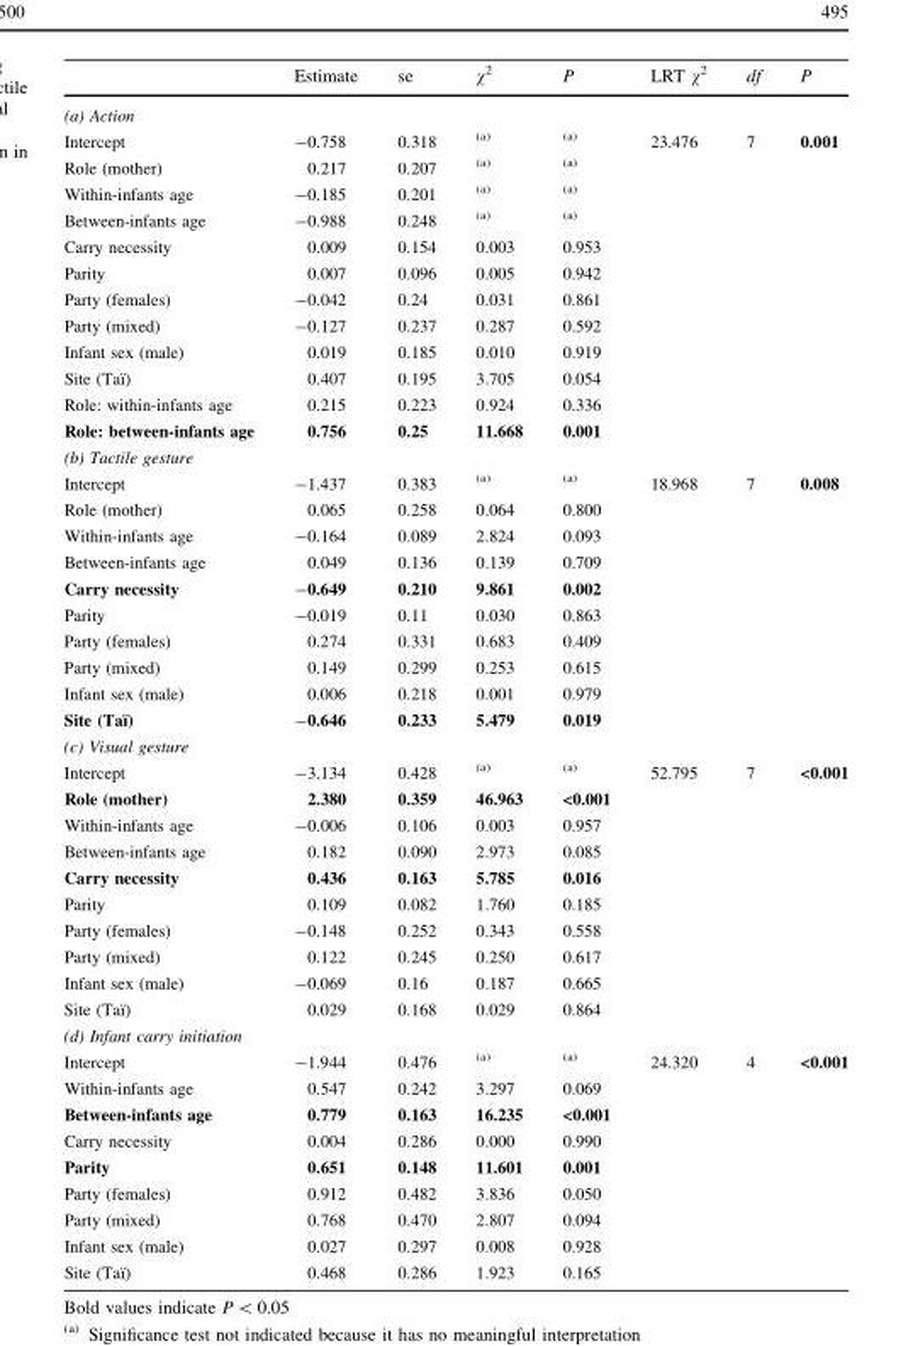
<table><thead><tr><td></td><td>Estimate</td><td>se</td><td>χ<sup>2</sup></td><td>P</td><td>LRT χ<sup>2</sup></td><td>df</td><td>P</td></tr></thead><tbody><tr><td colspan="8">(a) Action</td></tr><tr><td>Intercept</td><td>-0.758</td><td>0.318</td><td><sup>(a)</sup></td><td><sup>(a)</sup></td><td>23.476</td><td>7</td><td>0.001</td></tr><tr><td>Role (mother)</td><td>0.217</td><td>0.207</td><td><sup>(a)</sup></td><td><sup>(a)</sup></td><td></td><td></td><td></td></tr><tr><td>Within-infants age</td><td>-0.185</td><td>0.201</td><td><sup>(a)</sup></td><td><sup>(a)</sup></td><td></td><td></td><td></td></tr><tr><td>Between-infants age</td><td>-0.988</td><td>0.248</td><td><sup>(a)</sup></td><td><sup>(a)</sup></td><td></td><td></td><td></td></tr><tr><td>Carry necessity</td><td>0.009</td><td>0.154</td><td>0.003</td><td>0.953</td><td></td><td></td><td></td></tr><tr><td>Parity</td><td>0.007</td><td>0.096</td><td>0.005</td><td>0.942</td><td></td><td></td><td></td></tr><tr><td>Party (females)</td><td>-0.042</td><td>0.24</td><td>0.031</td><td>0.861</td><td></td><td></td><td></td></tr><tr><td>Party (mixed)</td><td>-0.127</td><td>0.237</td><td>0.287</td><td>0.592</td><td></td><td></td><td></td></tr><tr><td>Infant sex (male)</td><td>0.019</td><td>0.185</td><td>0.010</td><td>0.919</td><td></td><td></td><td></td></tr><tr><td>Site (Taı¨)</td><td>0.407</td><td>0.195</td><td>3.705</td><td>0.054</td><td></td><td></td><td></td></tr><tr><td>Role: within-infants age</td><td>0.215</td><td>0.223</td><td>0.924</td><td>0.336</td><td></td><td></td><td></td></tr><tr><td>Role: between-infants age</td><td>0.756</td><td>0.25</td><td>11.668</td><td>0.001</td><td></td><td></td><td></td></tr><tr><td colspan="8">(b) Tactile gesture</td></tr><tr><td>Intercept</td><td>-1.437</td><td>0.383</td><td><sup>(a)</sup></td><td><sup>(a)</sup></td><td>18.968</td><td>7</td><td>0.008</td></tr><tr><td>Role (mother)</td><td>0.065</td><td>0.258</td><td>0.064</td><td>0.800</td><td></td><td></td><td></td></tr><tr><td>Within-infants age</td><td>-0.164</td><td>0.089</td><td>2.824</td><td>0.093</td><td></td><td></td><td></td></tr><tr><td>Between-infants age</td><td>0.049</td><td>0.136</td><td>0.139</td><td>0.709</td><td></td><td></td><td></td></tr><tr><td>Carry necessity</td><td>-0.649</td><td>0.210</td><td>9.861</td><td>0.002</td><td></td><td></td><td></td></tr><tr><td>Parity</td><td>-0.019</td><td>0.11</td><td>0.030</td><td>0.863</td><td></td><td></td><td></td></tr><tr><td>Party (females)</td><td>0.274</td><td>0.331</td><td>0.683</td><td>0.409</td><td></td><td></td><td></td></tr><tr><td>Party (mixed)</td><td>0.149</td><td>0.299</td><td>0.253</td><td>0.615</td><td></td><td></td><td></td></tr><tr><td>Infant sex (male)</td><td>0.006</td><td>0.218</td><td>0.001</td><td>0.979</td><td></td><td></td><td></td></tr><tr><td>Site (Taı¨)</td><td>-0.646</td><td>0.233</td><td>5.479</td><td>0.019</td><td></td><td></td><td></td></tr><tr><td colspan="8">(c) Visual gesture</td></tr><tr><td>Intercept</td><td>-3.134</td><td>0.428</td><td><sup>(a)</sup></td><td><sup>(a)</sup></td><td>52.795</td><td>7</td><td>&lt;0.001</td></tr><tr><td>Role (mother)</td><td>2.380</td><td>0.359</td><td>46.963</td><td>&lt;0.001</td><td></td><td></td><td></td></tr><tr><td>Within-infants age</td><td>-0.006</td><td>0.106</td><td>0.003</td><td>0.957</td><td></td><td></td><td></td></tr><tr><td>Between-infants age</td><td>0.182</td><td>0.090</td><td>2.973</td><td>0.085</td><td></td><td></td><td></td></tr><tr><td>Carry necessity</td><td>0.436</td><td>0.163</td><td>5.785</td><td>0.016</td><td></td><td></td><td></td></tr><tr><td>Parity</td><td>0.109</td><td>0.082</td><td>1.760</td><td>0.185</td><td></td><td></td><td></td></tr><tr><td>Party (females)</td><td>-0.148</td><td>0.252</td><td>0.343</td><td>0.558</td><td></td><td></td><td></td></tr><tr><td>Party (mixed)</td><td>0.122</td><td>0.245</td><td>0.250</td><td>0.617</td><td></td><td></td><td></td></tr><tr><td>Infant sex (male)</td><td>-0.069</td><td>0.16</td><td>0.187</td><td>0.665</td><td></td><td></td><td></td></tr><tr><td>Site (Taı¨)</td><td>0.029</td><td>0.168</td><td>0.029</td><td>0.864</td><td></td><td></td><td></td></tr><tr><td colspan="8">(d) Infant carry initiation</td></tr><tr><td>Intercept</td><td>-1.944</td><td>0.476</td><td><sup>(a)</sup></td><td><sup>(a)</sup></td><td>24.320</td><td>4</td><td>&lt;0.001</td></tr><tr><td>Within-infants age</td><td>0.547</td><td>0.242</td><td>3.297</td><td>0.069</td><td></td><td></td><td></td></tr><tr><td>Between-infants age</td><td>0.779</td><td>0.163</td><td>16.235</td><td>&lt;0.001</td><td></td><td></td><td></td></tr><tr><td>Carry necessity</td><td>0.004</td><td>0.286</td><td>0.000</td><td>0.990</td><td></td><td></td><td></td></tr><tr><td>Parity</td><td>0.651</td><td>0.148</td><td>11.601</td><td>0.001</td><td></td><td></td><td></td></tr><tr><td>Party (females)</td><td>0.912</td><td>0.482</td><td>3.836</td><td>0.050</td><td></td><td></td><td></td></tr><tr><td>Party (mixed)</td><td>0.768</td><td>0.470</td><td>2.807</td><td>0.094</td><td></td><td></td><td></td></tr><tr><td>Infant sex (male)</td><td>0.027</td><td>0.297</td><td>0.008</td><td>0.928</td><td></td><td></td><td></td></tr><tr><td>Site (Taı¨)</td><td>0.468</td><td>0.286</td><td>1.923</td><td>0.165</td><td></td><td></td><td></td></tr></tbody></table>